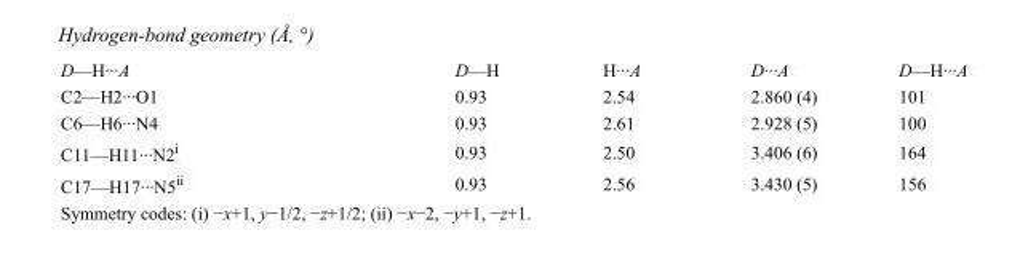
<table><tbody><tr><td>D—H···A</td><td>D—H</td><td>H···A</td><td>D···A</td><td>D—H···A</td></tr><tr><td>C2—H2···O1</td><td>0.93</td><td>2.54</td><td>2.860 (4)</td><td>101</td></tr><tr><td>C6—H6···N4</td><td>0.93</td><td>2.61</td><td>2.928 (5)</td><td>100</td></tr><tr><td>C11—H11···N2<sup>i</sup></td><td>0.93</td><td>2.50</td><td>3.406 (6)</td><td>164</td></tr><tr><td>C17—H17···N5<sup>ii</sup></td><td>0.93</td><td>2.56</td><td>3.430 (5)</td><td>156</td></tr></tbody></table>